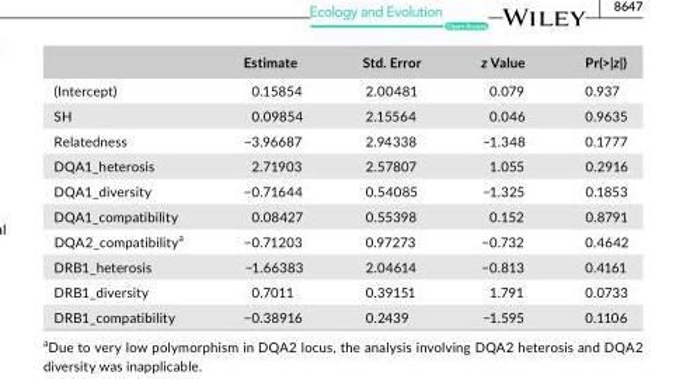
<table><thead><tr><td></td><td>Estimate</td><td>Std. Error</td><td>z Value</td><td>Pr(&gt;|z|)</td></tr></thead><tbody><tr><td>(Intercept)</td><td>0.15854</td><td>2.00481</td><td>0.079</td><td>0.937</td></tr><tr><td>SH</td><td>0.09854</td><td>2.15564</td><td>0.046</td><td>0.9635</td></tr><tr><td>Relatedness</td><td>−3.96687</td><td>2.94338</td><td>−1.348</td><td>0.1777</td></tr><tr><td>DQA1_heterosis</td><td>2.71903</td><td>2.57807</td><td>1.055</td><td>0.2916</td></tr><tr><td>DQA1_diversity</td><td>−0.71644</td><td>0.54085</td><td>−1.325</td><td>0.1853</td></tr><tr><td>DQA1_compatibility</td><td>0.08427</td><td>0.55398</td><td>0.152</td><td>0.8791</td></tr><tr><td>DQA2_compatibility<sup>a</sup></td><td>−0.71203</td><td>0.97273</td><td>−0.732</td><td>0.4642</td></tr><tr><td>DRB1_heterosis</td><td>−1.66383</td><td>2.04614</td><td>−0.813</td><td>0.4161</td></tr><tr><td>DRB1_diversity</td><td>0.7011</td><td>0.39151</td><td>1.791</td><td>0.0733</td></tr><tr><td>DRB1_compatibility</td><td>−0.38916</td><td>0.2439</td><td>−1.595</td><td>0.1106</td></tr></tbody></table>